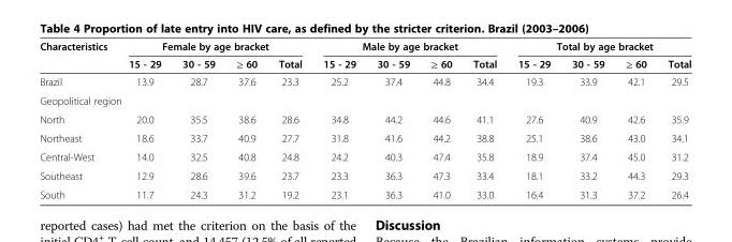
<table><thead><tr><td rowspan="2">Characteristics</td><td colspan="4">Female by age bracket</td><td colspan="4">Male by age bracket</td><td colspan="4">Total by age bracket</td></tr><tr><td>15 - 29</td><td>30 - 59</td><td>≥ 60</td><td>Total</td><td>15 - 29</td><td>30 - 59</td><td>≥ 60</td><td>Total</td><td>15 - 29</td><td>30 - 59</td><td>≥ 60</td><td>Total</td></tr></thead><tbody><tr><td>Brazil</td><td>13.9</td><td>28.7</td><td>37.6</td><td>23.3</td><td>25.2</td><td>37.4</td><td>44.8</td><td>34.4</td><td>19.3</td><td>33.9</td><td>42.1</td><td>29.5</td></tr><tr><td colspan="13">Geopolitical region</td></tr><tr><td>North</td><td>20.0</td><td>35.5</td><td>38.6</td><td>28.6</td><td>34.8</td><td>44.2</td><td>44.6</td><td>41.1</td><td>27.6</td><td>40.9</td><td>42.6</td><td>35.9</td></tr><tr><td>Northeast</td><td>18.6</td><td>33.7</td><td>40.9</td><td>27.7</td><td>31.8</td><td>41.6</td><td>44.2</td><td>38.8</td><td>25.1</td><td>38.6</td><td>43.0</td><td>34.1</td></tr><tr><td>Central-West</td><td>14.0</td><td>32.5</td><td>40.8</td><td>24.8</td><td>24.2</td><td>40.3</td><td>47.4</td><td>35.8</td><td>18.9</td><td>37.4</td><td>45.0</td><td>31.2</td></tr><tr><td>Southeast</td><td>12.9</td><td>28.6</td><td>39.6</td><td>23.7</td><td>23.3</td><td>36.3</td><td>47.3</td><td>33.4</td><td>18.1</td><td>33.2</td><td>44.3</td><td>29.3</td></tr><tr><td>South</td><td>11.7</td><td>24.3</td><td>31.2</td><td>19.2</td><td>23.1</td><td>36.3</td><td>41.0</td><td>33.0</td><td>16.4</td><td>31.3</td><td>37.2</td><td>26.4</td></tr></tbody></table>